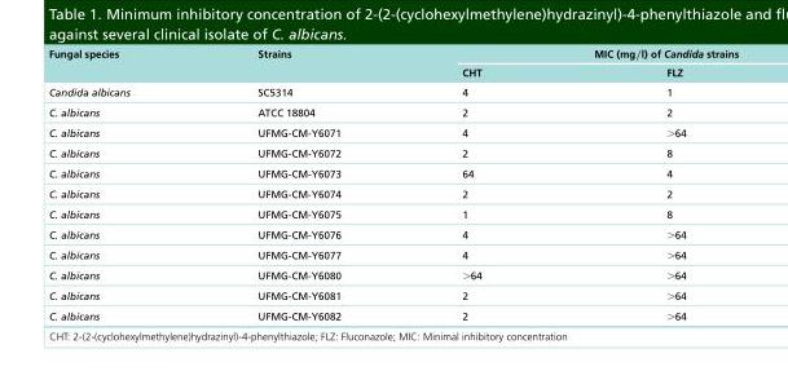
<table><thead><tr><td rowspan="2">Fungal species</td><td rowspan="2">Strains</td><td colspan="2">MIC (mg/l) of Candida strains</td></tr><tr><td>CHT</td><td>FLZ</td></tr></thead><tbody><tr><td>Candida albicans</td><td>SC5314</td><td>4</td><td>1</td></tr><tr><td>C. albicans</td><td>ATCC 18804</td><td>2</td><td>2</td></tr><tr><td>C. albicans</td><td>UFMG-CM-Y6071</td><td>4</td><td>&gt;64</td></tr><tr><td>C. albicans</td><td>UFMG-CM-Y6072</td><td>2</td><td>8</td></tr><tr><td>C. albicans</td><td>UFMG-CM-Y6073</td><td>64</td><td>4</td></tr><tr><td>C. albicans</td><td>UFMG-CM-Y6074</td><td>2</td><td>2</td></tr><tr><td>C. albicans</td><td>UFMG-CM-Y6075</td><td>1</td><td>8</td></tr><tr><td>C. albicans</td><td>UFMG-CM-Y6076</td><td>4</td><td>&gt;64</td></tr><tr><td>C. albicans</td><td>UFMG-CM-Y6077</td><td>4</td><td>&gt;64</td></tr><tr><td>C. albicans</td><td>UFMG-CM-Y6080</td><td>&gt;64</td><td>&gt;64</td></tr><tr><td>C. albicans</td><td>UFMG-CM-Y6081</td><td>2</td><td>&gt;64</td></tr><tr><td>C. albicans</td><td>UFMG-CM-Y6082</td><td>2</td><td>&gt;64</td></tr></tbody></table>